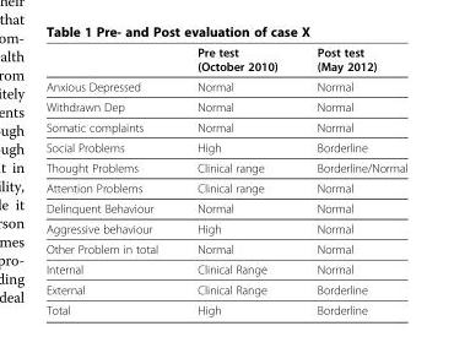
<table><thead><tr><td></td><td>Pre test (October 2010)</td><td>Post test (May 2012)</td></tr></thead><tbody><tr><td>Anxious Depressed</td><td>Normal</td><td>Normal</td></tr><tr><td>Withdrawn Dep</td><td>Normal</td><td>Normal</td></tr><tr><td>Somatic complaints</td><td>Normal</td><td>Normal</td></tr><tr><td>Social Problems</td><td>High</td><td>Borderline</td></tr><tr><td>Thought Problems</td><td>Clinical range</td><td>Borderline/Normal</td></tr><tr><td>Attention Problems</td><td>Clinical range</td><td>Normal</td></tr><tr><td>Delinquent Behaviour</td><td>Normal</td><td>Normal</td></tr><tr><td>Aggressive behaviour</td><td>High</td><td>Normal</td></tr><tr><td>Other Problem in total</td><td>Normal</td><td>Normal</td></tr><tr><td>Internal</td><td>Clinical Range</td><td>Normal</td></tr><tr><td>External</td><td>Clinical Range</td><td>Borderline</td></tr><tr><td>Total</td><td>High</td><td>Borderline</td></tr></tbody></table>